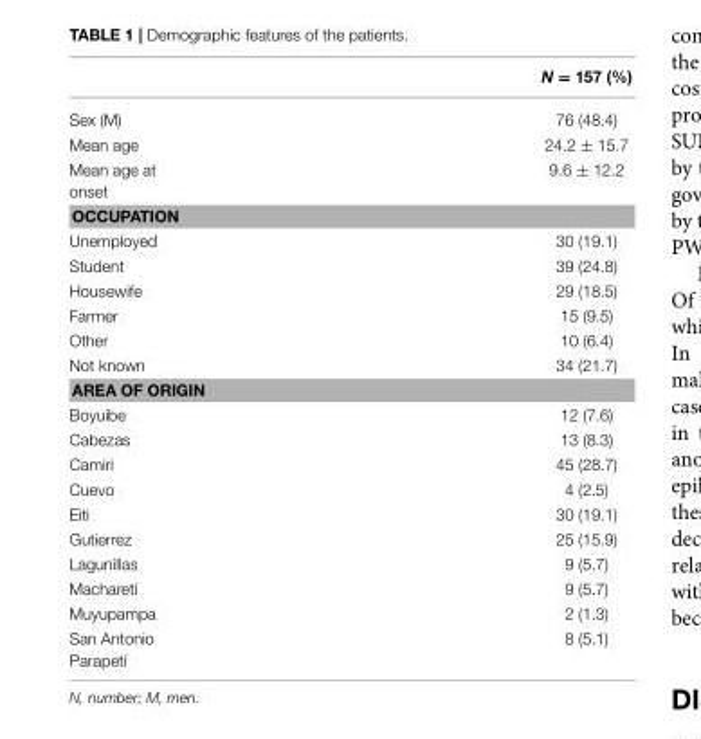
<table><thead><tr><td></td><td>N = 157 (%)</td></tr></thead><tbody><tr><td>Sex (M)</td><td>76 (48.4)</td></tr><tr><td>Mean age</td><td>24.2 ± 15.7</td></tr><tr><td>Mean age at onset</td><td>9.6 ± 12.2</td></tr><tr><td colspan="2">OCCUPATION</td></tr><tr><td>Unemployed</td><td>30 (19.1)</td></tr><tr><td>Student</td><td>39 (24.8)</td></tr><tr><td>Housewife</td><td>29 (18.5)</td></tr><tr><td>Farmer</td><td>15 (9.5)</td></tr><tr><td>Other</td><td>10 (6.4)</td></tr><tr><td>Not known</td><td>34 (21.7)</td></tr><tr><td colspan="2">AREA OF ORIGIN</td></tr><tr><td>Boyuibe</td><td>12 (7.6)</td></tr><tr><td>Cabezas</td><td>13 (8.3)</td></tr><tr><td>Camiri</td><td>45 (28.7)</td></tr><tr><td>Cuevo</td><td>4 (2.5)</td></tr><tr><td>Eiti</td><td>30 (19.1)</td></tr><tr><td>Gutierrez</td><td>25 (15.9)</td></tr><tr><td>Lagunillas</td><td>9 (5.7)</td></tr><tr><td>Macharetí</td><td>9 (5.7)</td></tr><tr><td>Muyupampa</td><td>2 (1.3)</td></tr><tr><td>San Antonio Parapetí</td><td>8 (5.1)</td></tr></tbody></table>